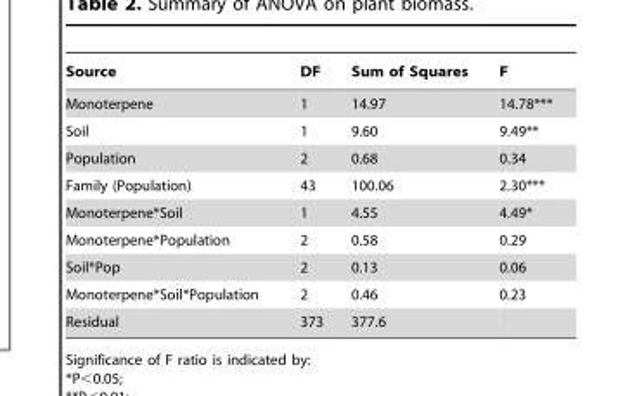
<table><thead><tr><td>Source</td><td>DF</td><td>Sum of Squares</td><td>F</td></tr></thead><tbody><tr><td>Monoterpene</td><td>1</td><td>14.97</td><td>14.78***</td></tr><tr><td>Soil</td><td>1</td><td>9.60</td><td>9.49**</td></tr><tr><td>Population</td><td>2</td><td>0.68</td><td>0.34</td></tr><tr><td>Family (Population)</td><td>43</td><td>100.06</td><td>2.30***</td></tr><tr><td>Monoterpene*Soil</td><td>1</td><td>4.55</td><td>4.49*</td></tr><tr><td>Monoterpene*Population</td><td>2</td><td>0.58</td><td>0.29</td></tr><tr><td>Soil*Pop</td><td>2</td><td>0.13</td><td>0.06</td></tr><tr><td>Monoterpene*Soil*Population</td><td>2</td><td>0.46</td><td>0.23</td></tr><tr><td>Residual</td><td>373</td><td>377.6</td><td></td></tr></tbody></table>